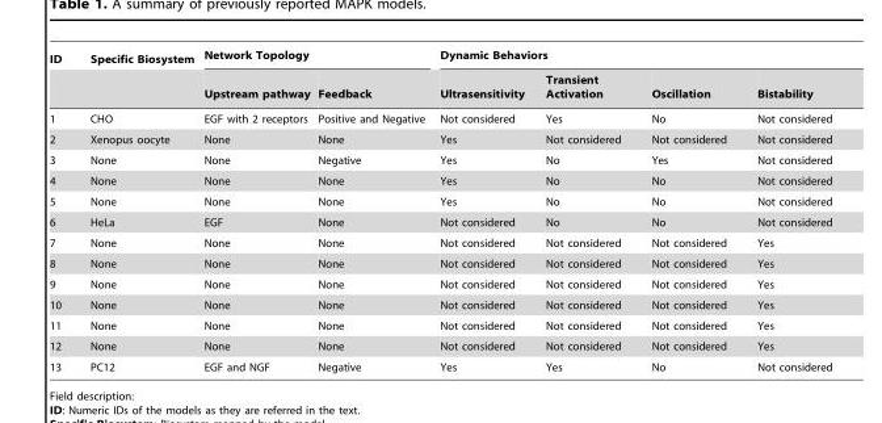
<table><thead><tr><td rowspan="2">ID</td><td rowspan="2">Specific Biosystem</td><td colspan="2">Network Topology</td><td colspan="4">Dynamic Behaviors</td></tr><tr><td>Upstream pathway</td><td>Feedback</td><td>Ultrasensitivity</td><td>Transient Activation</td><td>Oscillation</td><td>Bistability</td></tr></thead><tbody><tr><td>1</td><td>CHO</td><td>EGF with 2 receptors</td><td>Positive and Negative</td><td>Not considered</td><td>Yes</td><td>No</td><td>Not considered</td></tr><tr><td>2</td><td>Xenopus oocyte</td><td>None</td><td>None</td><td>Yes</td><td>Not considered</td><td>Not considered</td><td>Not considered</td></tr><tr><td>3</td><td>None</td><td>None</td><td>Negative</td><td>Yes</td><td>No</td><td>Yes</td><td>Not considered</td></tr><tr><td>4</td><td>None</td><td>None</td><td>None</td><td>Yes</td><td>No</td><td>No</td><td>Not considered</td></tr><tr><td>5</td><td>None</td><td>None</td><td>None</td><td>Yes</td><td>No</td><td>No</td><td>Not considered</td></tr><tr><td>6</td><td>HeLa</td><td>EGF</td><td>None</td><td>Not considered</td><td>No</td><td>No</td><td>Not considered</td></tr><tr><td>7</td><td>None</td><td>None</td><td>None</td><td>Not considered</td><td>Not considered</td><td>Not considered</td><td>Yes</td></tr><tr><td>8</td><td>None</td><td>None</td><td>None</td><td>Not considered</td><td>Not considered</td><td>Not considered</td><td>Yes</td></tr><tr><td>9</td><td>None</td><td>None</td><td>None</td><td>Not considered</td><td>Not considered</td><td>Not considered</td><td>Yes</td></tr><tr><td>10</td><td>None</td><td>None</td><td>None</td><td>Not considered</td><td>Not considered</td><td>Not considered</td><td>Yes</td></tr><tr><td>11</td><td>None</td><td>None</td><td>None</td><td>Not considered</td><td>Not considered</td><td>Not considered</td><td>Yes</td></tr><tr><td>12</td><td>None</td><td>None</td><td>None</td><td>Not considered</td><td>Not considered</td><td>Not considered</td><td>Yes</td></tr><tr><td>13</td><td>PC12</td><td>EGF and NGF</td><td>Negative</td><td>Yes</td><td>Yes</td><td>No</td><td>Not considered</td></tr></tbody></table>